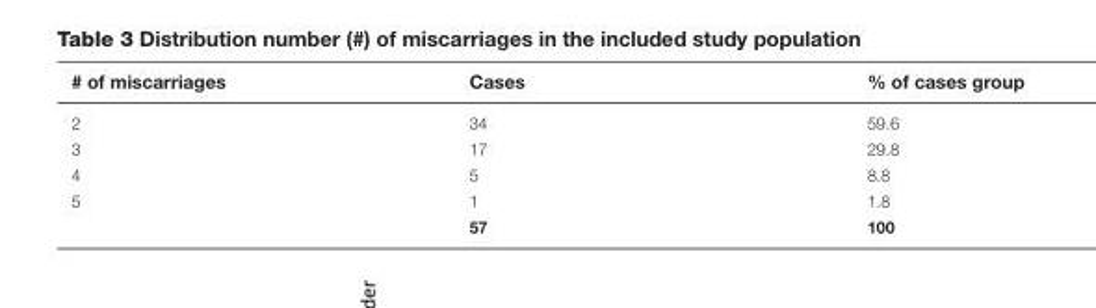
<table><thead><tr><td># of miscarriages</td><td>Cases</td><td>% of cases group</td></tr></thead><tbody><tr><td>2</td><td>34</td><td>59.6</td></tr><tr><td>3</td><td>17</td><td>29.8</td></tr><tr><td>4</td><td>5</td><td>8.8</td></tr><tr><td rowspan="2">5</td><td>1</td><td>1.8</td></tr><tr><td>57</td><td>100</td></tr></tbody></table>